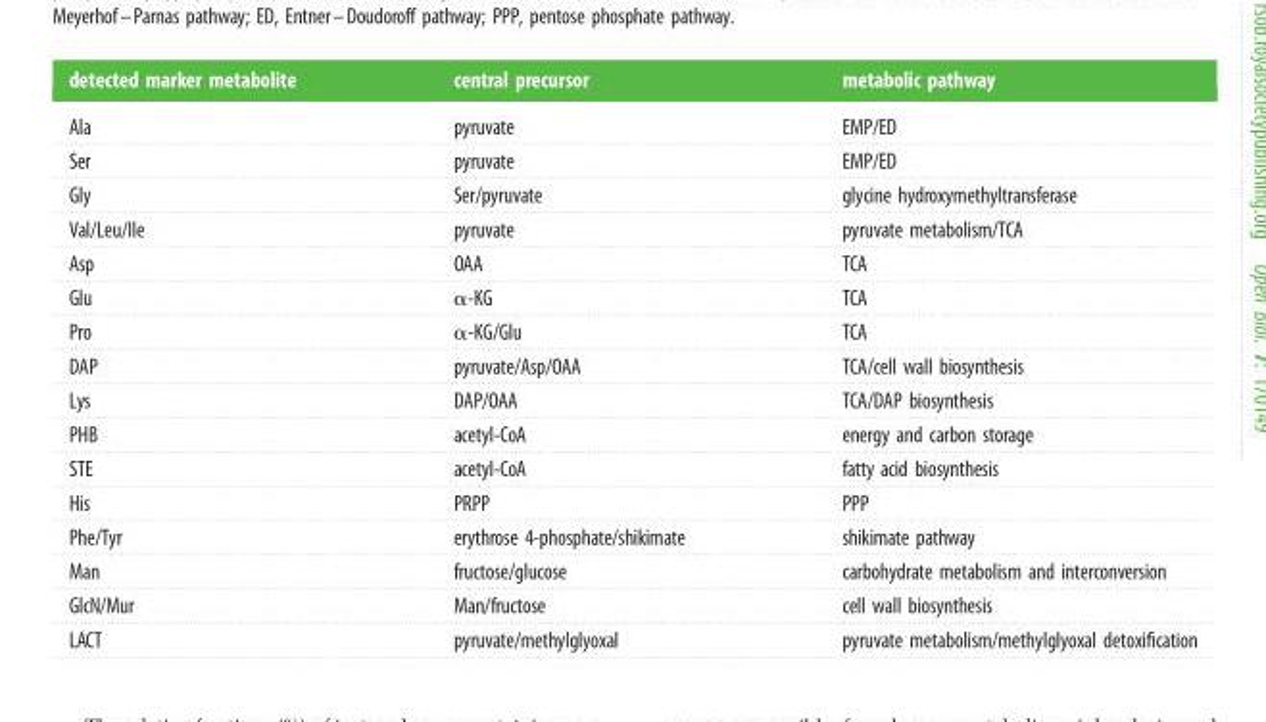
<table><thead><tr><td>detected marker metabolite</td><td>central precursor</td><td>metabolic pathway</td></tr></thead><tbody><tr><td>Ala</td><td>pyruvate</td><td>EMP/ED</td></tr><tr><td>Ser</td><td>pyruvate</td><td>EMP/ED</td></tr><tr><td>Gly</td><td>Ser/pyruvate</td><td>glycine hydroxymethyltransferase</td></tr><tr><td>Val/Leu/Ile</td><td>pyruvate</td><td>pyruvate metabolism/TCA</td></tr><tr><td>Asp</td><td>OAA</td><td>TCA</td></tr><tr><td>Glu</td><td>α-KG</td><td>TCA</td></tr><tr><td>Pro</td><td>α-KG/Glu</td><td>TCA</td></tr><tr><td>DAP</td><td>pyruvate/Asp/OAA</td><td>TCA/cell wall biosynthesis</td></tr><tr><td>Lys</td><td>DAP/OAA</td><td>TCA/DAP biosynthesis</td></tr><tr><td>PHB</td><td>acetyl-CoA</td><td>energy and carbon storage</td></tr><tr><td>STE</td><td>acetyl-CoA</td><td>fatty acid biosynthesis</td></tr><tr><td>His</td><td>PRPP</td><td>PPP</td></tr><tr><td>Phe/Tyr</td><td>erythrose 4-phosphate/shikimate</td><td>shikimate pathway</td></tr><tr><td>Man</td><td>fructose/glucose</td><td>carbohydrate metabolism and interconversion</td></tr><tr><td>GlcN/Mur</td><td>Man/fructose</td><td>cell wall biosynthesis</td></tr><tr><td>LACT</td><td>pyruvate/methylglyoxal</td><td>pyruvate metabolism/methylglyoxal detoxification</td></tr></tbody></table>